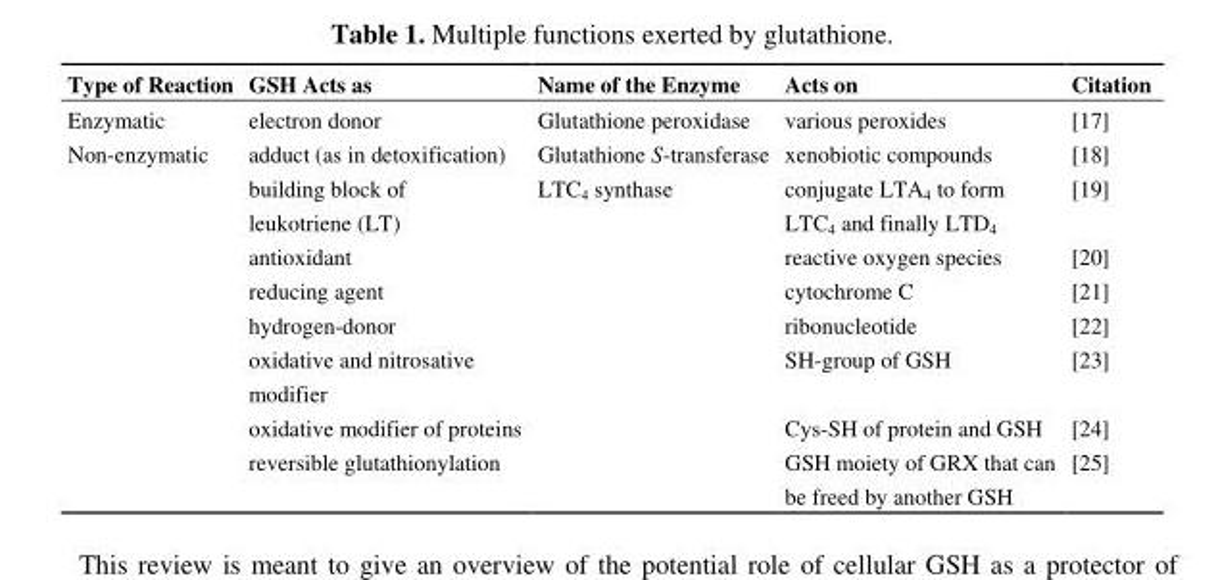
<table><thead><tr><td>Type of Reaction</td><td>GSH Acts as</td><td>Name of the Enzyme</td><td>Acts on</td><td>Citation</td></tr></thead><tbody><tr><td>Enzymatic</td><td>electron donor</td><td>Glutathione peroxidase</td><td>various peroxides</td><td>[17]</td></tr><tr><td rowspan="8">Non-enzymatic</td><td>adduct (as in detoxification)</td><td>Glutathione S-transferase</td><td>xenobiotic compounds</td><td>[18]</td></tr><tr><td>building block of leukotriene (LT)</td><td>LTC<sub>4</sub> synthase</td><td>conjugate LTA<sub>4</sub> to form LTC<sub>4</sub> and finally LTD<sub>4</sub></td><td>[19]</td></tr><tr><td>antioxidant</td><td></td><td>reactive oxygen species</td><td>[20]</td></tr><tr><td>reducing agent</td><td></td><td>cytochrome C</td><td>[21]</td></tr><tr><td>hydrogen-donor</td><td></td><td>ribonucleotide</td><td>[22]</td></tr><tr><td>oxidative and nitrosative modifier</td><td></td><td>SH-group of GSH</td><td>[23]</td></tr><tr><td>oxidative modifier of proteins</td><td></td><td>Cys-SH of protein and GSH</td><td>[24]</td></tr><tr><td>reversible glutathionylation</td><td></td><td>GSH moiety of GRX that can be freed by another GSH</td><td>[25]</td></tr></tbody></table>